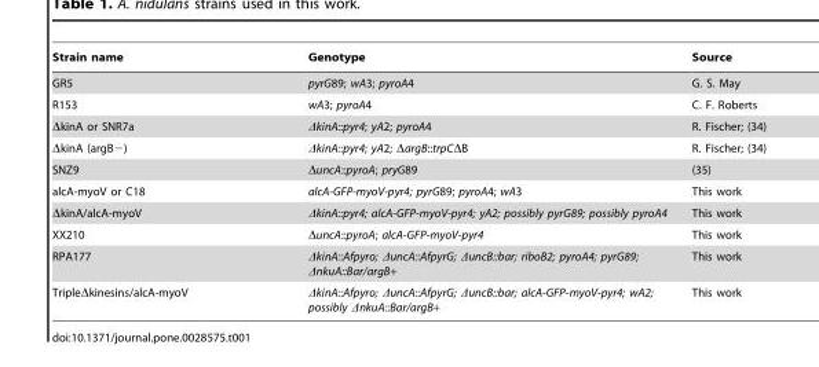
<table><thead><tr><td>Strain name</td><td>Genotype</td><td>Source</td></tr></thead><tbody><tr><td>GR5</td><td>pyrG89; wA3; pyroA4</td><td>G. S. May</td></tr><tr><td>R153</td><td>wA3; pyroA4</td><td>C. F. Roberts</td></tr><tr><td>ΔkinA or SNR7a</td><td>ΔkinA::pyr4; yA2; pyroA4</td><td>R. Fischer; (34)</td></tr><tr><td>ΔkinA (argB−)</td><td>ΔkinA::pyr4; yA2; ΔargB::trpCΔB</td><td>R. Fischer; (34)</td></tr><tr><td>SNZ9</td><td>ΔuncA::pyroA; pryG89</td><td>(35)</td></tr><tr><td>alcA-myoV or C18</td><td>alcA-GFP-myoV-pyr4; pyrG89; pyroA4; wA3</td><td>This work</td></tr><tr><td>ΔkinA/alcA-myoV</td><td>ΔkinA::pyr4; alcA-GFP-myoV-pyr4; yA2; possibly pyrG89; possibly pyroA4</td><td>This work</td></tr><tr><td>XX210</td><td>ΔuncA::pyroA; alcA-GFP-myoV-pyr4</td><td>This work</td></tr><tr><td>RPA177</td><td>ΔkinA::Afpyro; ΔuncA::AfpyrG; ΔuncB::bar; riboB2; pyroA4; pyrG89; ΔnkuA::Bar/argB+</td><td>This work</td></tr><tr><td>TripleΔkinesins/alcA-myoV</td><td>ΔkinA::Afpyro; ΔuncA::AfpyrG; ΔuncB::bar; alcA-GFP-myoV-pyr4; wA2; possibly ΔnkuA::Bar/argB+</td><td>This work</td></tr></tbody></table>